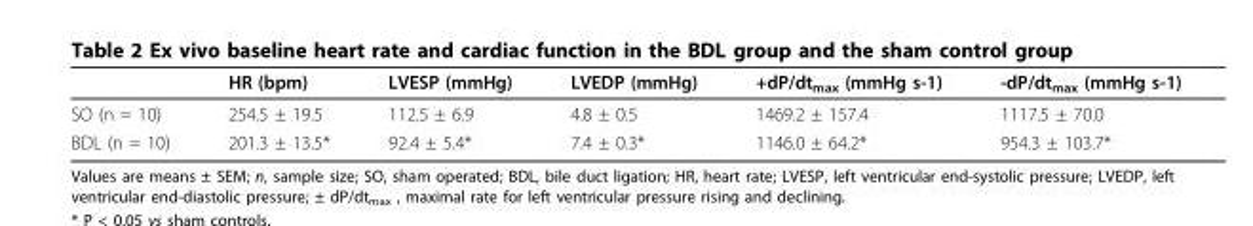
<table><thead><tr><td></td><td>HR (bpm)</td><td>LVESP (mmHg)</td><td>LVEDP (mmHg)</td><td>+dP/dt<sub>max</sub> (mmHg s-1)</td><td>-dP/dt<sub>max</sub> (mmHg s-1)</td></tr></thead><tbody><tr><td>SO (n = 10)</td><td>254.5 ± 19.5</td><td>112.5 ± 6.9</td><td>4.8 ± 0.5</td><td>1469.2 ± 157.4</td><td>1117.5 ± 70.0</td></tr><tr><td>BDL (n = 10)</td><td>201.3 ± 13.5*</td><td>92.4 ± 5.4*</td><td>7.4 ± 0.3*</td><td>1146.0 ± 64.2*</td><td>954.3 ± 103.7*</td></tr></tbody></table>